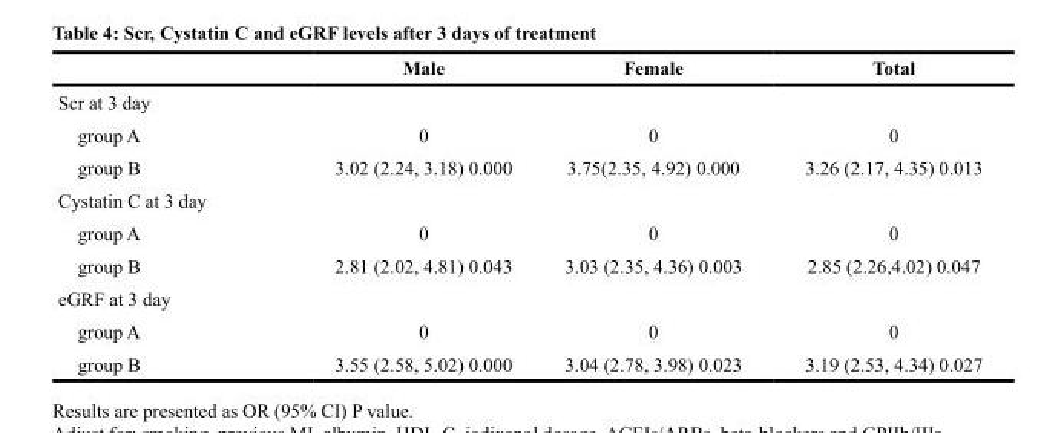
<table><thead><tr><td></td><td>Male</td><td>Female</td><td>Total</td></tr></thead><tbody><tr><td colspan="4">Scr at 3 day</td></tr><tr><td>group A</td><td>0</td><td>0</td><td>0</td></tr><tr><td>group B</td><td>3.02 (2.24, 3.18) 0.000</td><td>3.75(2.35, 4.92) 0.000</td><td>3.26 (2.17, 4.35) 0.013</td></tr><tr><td colspan="4">Cystatin C at 3 day</td></tr><tr><td>group A</td><td>0</td><td>0</td><td>0</td></tr><tr><td>group B</td><td>2.81 (2.02, 4.81) 0.043</td><td>3.03 (2.35, 4.36) 0.003</td><td>2.85 (2.26,4.02) 0.047</td></tr><tr><td colspan="4">eGRF at 3 day</td></tr><tr><td>group A</td><td>0</td><td>0</td><td>0</td></tr><tr><td>group B</td><td>3.55 (2.58, 5.02) 0.000</td><td>3.04 (2.78, 3.98) 0.023</td><td>3.19 (2.53, 4.34) 0.027</td></tr></tbody></table>